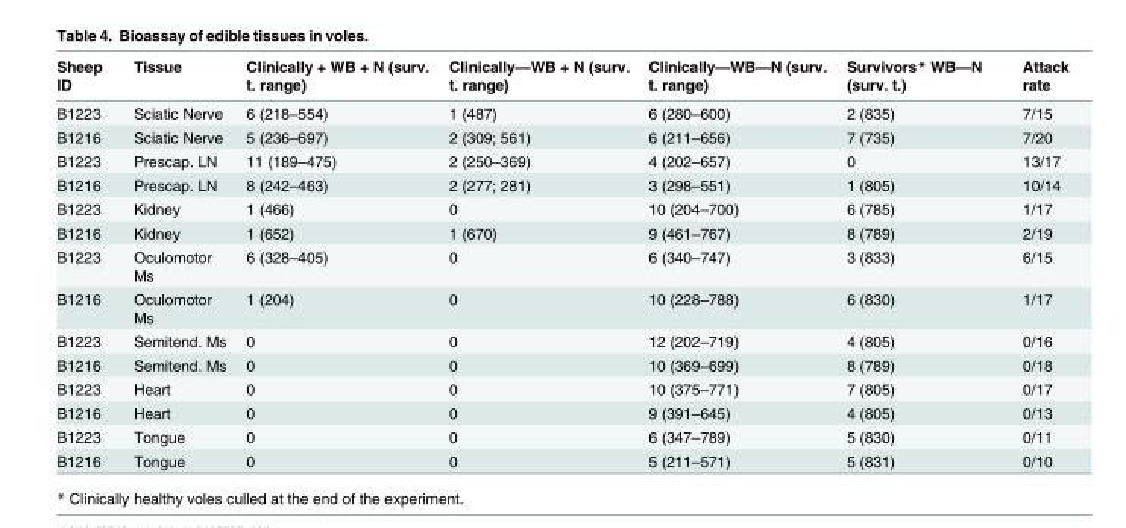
<table><thead><tr><td>Sheep ID</td><td>Tissue</td><td>Clinically + WB + N (surv. t. range)</td><td>Clinically—WB + N (surv. t. range)</td><td>Clinically—WB—N (surv. t. range)</td><td>Survivors* WB—N (surv. t.)</td><td>Attack rate</td></tr></thead><tbody><tr><td>B1223</td><td>Sciatic Nerve</td><td>6 (218–554)</td><td>1 (487)</td><td>6 (280–600)</td><td>2 (835)</td><td>7/15</td></tr><tr><td>B1216</td><td>Sciatic Nerve</td><td>5 (236–697)</td><td>2 (309; 561)</td><td>6 (211–656)</td><td>7 (735)</td><td>7/20</td></tr><tr><td>B1223</td><td>Prescap. LN</td><td>11 (189–475)</td><td>2 (250–369)</td><td>4 (202–657)</td><td>0</td><td>13/17</td></tr><tr><td>B1216</td><td>Prescap. LN</td><td>8 (242–463)</td><td>2 (277; 281)</td><td>3 (298–551)</td><td>1 (805)</td><td>10/14</td></tr><tr><td>B1223</td><td>Kidney</td><td>1 (466)</td><td>0</td><td>10 (204–700)</td><td>6 (785)</td><td>1/17</td></tr><tr><td>B1216</td><td>Kidney</td><td>1 (652)</td><td>1 (670)</td><td>9 (461–767)</td><td>8 (789)</td><td>2/19</td></tr><tr><td>B1223</td><td>Oculomotor Ms</td><td>6 (328–405)</td><td>0</td><td>6 (340–747)</td><td>3 (833)</td><td>6/15</td></tr><tr><td>B1216</td><td>Oculomotor Ms</td><td>1 (204)</td><td>0</td><td>10 (228–788)</td><td>6 (830)</td><td>1/17</td></tr><tr><td>B1223</td><td>Semitend. Ms</td><td>0</td><td>0</td><td>12 (202–719)</td><td>4 (805)</td><td>0/16</td></tr><tr><td>B1216</td><td>Semitend. Ms</td><td>0</td><td>0</td><td>10 (369–699)</td><td>8 (789)</td><td>0/18</td></tr><tr><td>B1223</td><td>Heart</td><td>0</td><td>0</td><td>10 (375–771)</td><td>7 (805)</td><td>0/17</td></tr><tr><td>B1216</td><td>Heart</td><td>0</td><td>0</td><td>9 (391–645)</td><td>4 (805)</td><td>0/13</td></tr><tr><td>B1223</td><td>Tongue</td><td>0</td><td>0</td><td>6 (347–789)</td><td>5 (830)</td><td>0/11</td></tr><tr><td>B1216</td><td>Tongue</td><td>0</td><td>0</td><td>5 (211–571)</td><td>5 (831)</td><td>0/10</td></tr></tbody></table>